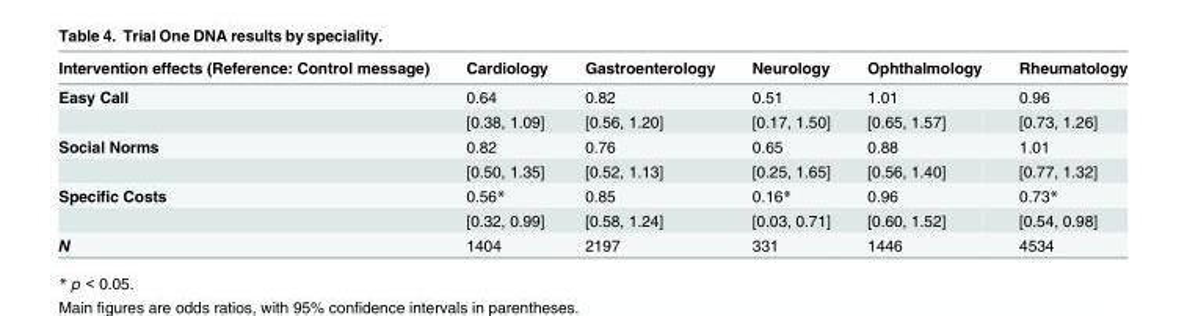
<table><thead><tr><td>Intervention effects (Reference: Control message)</td><td>Cardiology</td><td>Gastroenterology</td><td>Neurology</td><td>Ophthalmology</td><td>Rheumatology</td></tr></thead><tbody><tr><td rowspan="2">Easy Call</td><td>0.64</td><td>0.82</td><td>0.51</td><td>1.01</td><td>0.96</td></tr><tr><td>[0.38, 1.09]</td><td>[0.56, 1.20]</td><td>[0.17, 1.50]</td><td>[0.65, 1.57]</td><td>[0.73, 1.26]</td></tr><tr><td rowspan="2">Social Norms</td><td>0.82</td><td>0.76</td><td>0.65</td><td>0.88</td><td>1.01</td></tr><tr><td>[0.50, 1.35]</td><td>[0.52, 1.13]</td><td>[0.25, 1.65]</td><td>[0.56, 1.40]</td><td>[0.77, 1.32]</td></tr><tr><td rowspan="2">Specific Costs</td><td>0.56*</td><td>0.85</td><td>0.16*</td><td>0.96</td><td>0.73*</td></tr><tr><td>[0.32, 0.99]</td><td>[0.58, 1.24]</td><td>[0.03, 0.71]</td><td>[0.60, 1.52]</td><td>[0.54, 0.98]</td></tr><tr><td>N</td><td>1404</td><td>2197</td><td>331</td><td>1446</td><td>4534</td></tr></tbody></table>